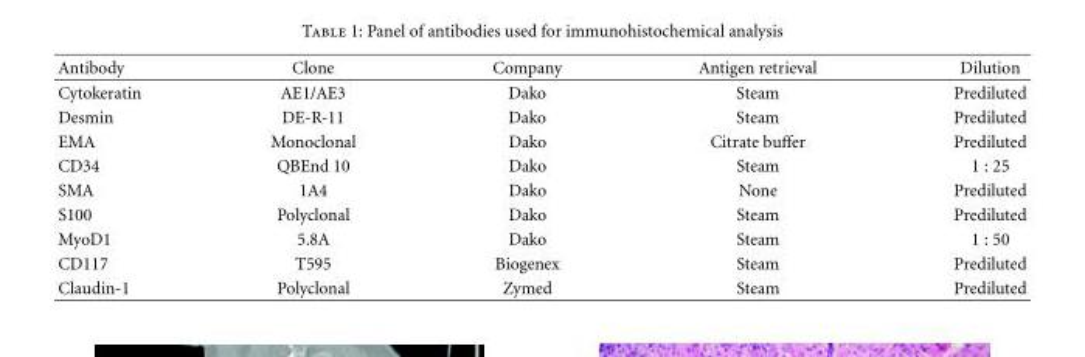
<table><thead><tr><td>Antibody</td><td>Clone</td><td>Company</td><td>Antigen retrieval</td><td>Dilution</td></tr></thead><tbody><tr><td>Cytokeratin</td><td>AE1/AE3</td><td>Dako</td><td>Steam</td><td>Prediluted</td></tr><tr><td>Desmin</td><td>DE-R-11</td><td>Dako</td><td>Steam</td><td>Prediluted</td></tr><tr><td>EMA</td><td>Monoclonal</td><td>Dako</td><td>Citrate buffer</td><td>Prediluted</td></tr><tr><td>CD34</td><td>QBEnd 10</td><td>Dako</td><td>Steam</td><td>1 : 25</td></tr><tr><td>SMA</td><td>1A4</td><td>Dako</td><td>None</td><td>Prediluted</td></tr><tr><td>S100</td><td>Polyclonal</td><td>Dako</td><td>Steam</td><td>Prediluted</td></tr><tr><td>MyoD1</td><td>5.8A</td><td>Dako</td><td>Steam</td><td>1 : 50</td></tr><tr><td>CD117</td><td>T595</td><td>Biogenex</td><td>Steam</td><td>Prediluted</td></tr><tr><td>Claudin-1</td><td>Polyclonal</td><td>Zymed</td><td>Steam</td><td>Prediluted</td></tr></tbody></table>